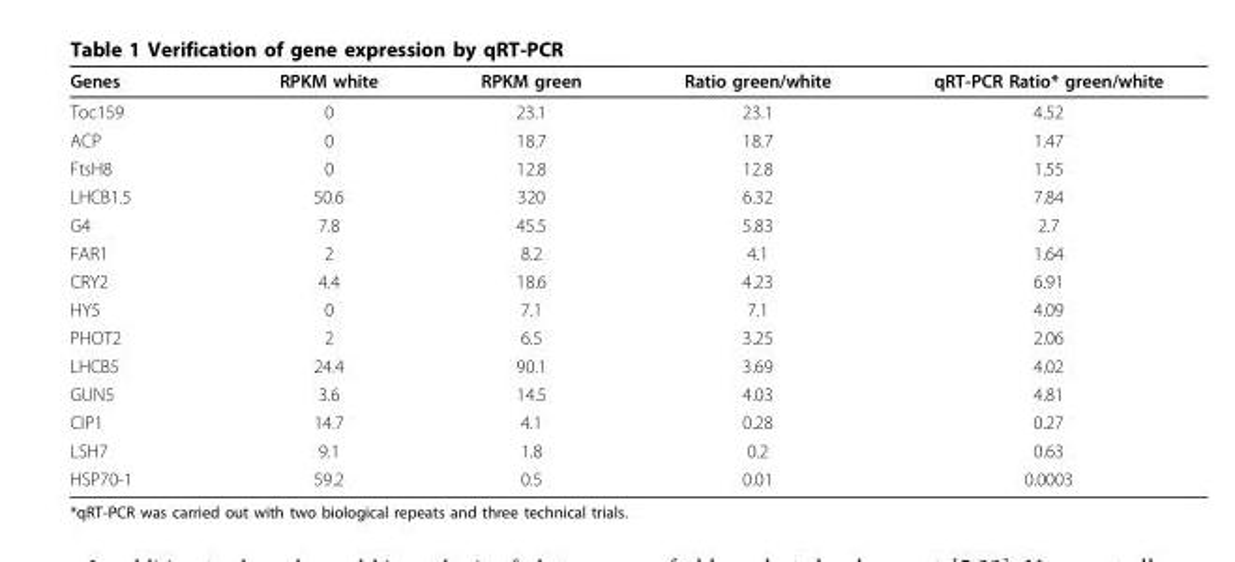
<table><thead><tr><td>Genes</td><td>RPKM white</td><td>RPKM green</td><td>Ratio green/white</td><td>qRT-PCR Ratio* green/white</td></tr></thead><tbody><tr><td>Toc159</td><td>0</td><td>23.1</td><td>23.1</td><td>4.52</td></tr><tr><td>ACP</td><td>0</td><td>18.7</td><td>18.7</td><td>1.47</td></tr><tr><td>FtsH8</td><td>0</td><td>12.8</td><td>12.8</td><td>1.55</td></tr><tr><td>LHCB1.5</td><td>50.6</td><td>320</td><td>6.32</td><td>7.84</td></tr><tr><td>G4</td><td>7.8</td><td>45.5</td><td>5.83</td><td>2.7</td></tr><tr><td>FAR1</td><td>2</td><td>8.2</td><td>4.1</td><td>1.64</td></tr><tr><td>CRY2</td><td>4.4</td><td>18.6</td><td>4.23</td><td>6.91</td></tr><tr><td>HY5</td><td>0</td><td>7.1</td><td>7.1</td><td>4.09</td></tr><tr><td>PHOT2</td><td>2</td><td>6.5</td><td>3.25</td><td>2.06</td></tr><tr><td>LHCB5</td><td>24.4</td><td>90.1</td><td>3.69</td><td>4.02</td></tr><tr><td>GUN5</td><td>3.6</td><td>14.5</td><td>4.03</td><td>4.81</td></tr><tr><td>CIP1</td><td>14.7</td><td>4.1</td><td>0.28</td><td>0.27</td></tr><tr><td>LSH7</td><td>9.1</td><td>1.8</td><td>0.2</td><td>0.63</td></tr><tr><td>HSP70-1</td><td>59.2</td><td>0.5</td><td>0.01</td><td>0.0003</td></tr></tbody></table>